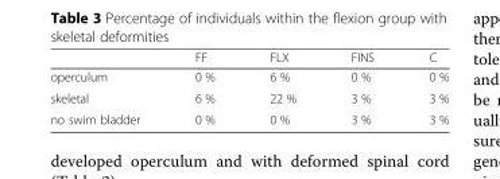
<table><thead><tr><td></td><td>FF</td><td>FLX</td><td>FINS</td><td>C</td></tr></thead><tbody><tr><td>operculum</td><td>0 %</td><td>6 %</td><td>0 %</td><td>0 %</td></tr><tr><td>skeletal</td><td>6 %</td><td>22 %</td><td>3 %</td><td>3 %</td></tr><tr><td>no swim bladder</td><td>0 %</td><td>0 %</td><td>3 %</td><td>3 %</td></tr></tbody></table>